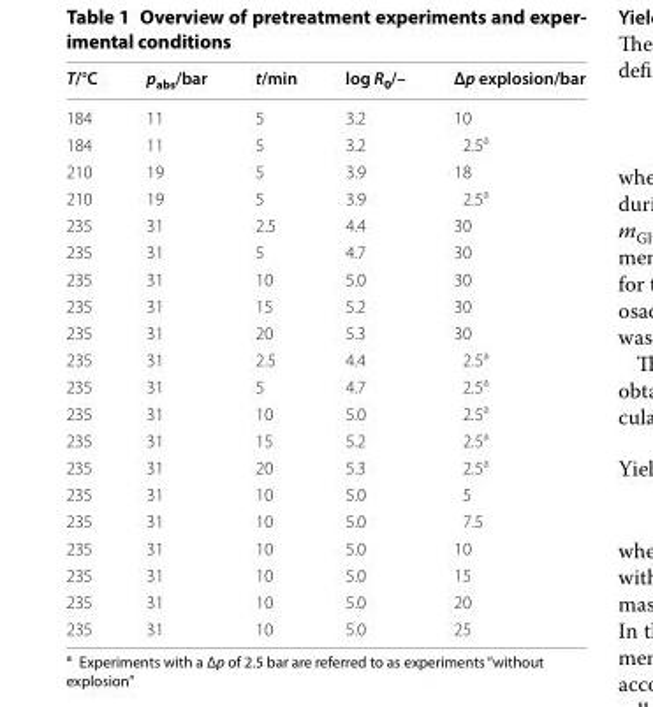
<table><thead><tr><td>T/°C</td><td>p<sub>abs</sub>/bar</td><td>t/min</td><td>log R<sub>0</sub>/–</td><td>Δp explosion/bar</td></tr></thead><tbody><tr><td>184</td><td>11</td><td>5</td><td>3.2</td><td>10</td></tr><tr><td>184</td><td>11</td><td>5</td><td>3.2</td><td>2.5<sup>a</sup></td></tr><tr><td>210</td><td>19</td><td>5</td><td>3.9</td><td>18</td></tr><tr><td>210</td><td>19</td><td>5</td><td>3.9</td><td>2.5<sup>a</sup></td></tr><tr><td>235</td><td>31</td><td>2.5</td><td>4.4</td><td>30</td></tr><tr><td>235</td><td>31</td><td>5</td><td>4.7</td><td>30</td></tr><tr><td>235</td><td>31</td><td>10</td><td>5.0</td><td>30</td></tr><tr><td>235</td><td>31</td><td>15</td><td>5.2</td><td>30</td></tr><tr><td>235</td><td>31</td><td>20</td><td>5.3</td><td>30</td></tr><tr><td>235</td><td>31</td><td>2.5</td><td>4.4</td><td>2.5<sup>a</sup></td></tr><tr><td>235</td><td>31</td><td>5</td><td>4.7</td><td>2.5<sup>a</sup></td></tr><tr><td>235</td><td>31</td><td>10</td><td>5.0</td><td>2.5<sup>a</sup></td></tr><tr><td>235</td><td>31</td><td>15</td><td>5.2</td><td>2.5<sup>a</sup></td></tr><tr><td>235</td><td>31</td><td>20</td><td>5.3</td><td>2.5<sup>a</sup></td></tr><tr><td>235</td><td>31</td><td>10</td><td>5.0</td><td>5</td></tr><tr><td>235</td><td>31</td><td>10</td><td>5.0</td><td>7.5</td></tr><tr><td>235</td><td>31</td><td>10</td><td>5.0</td><td>10</td></tr><tr><td>235</td><td>31</td><td>10</td><td>5.0</td><td>15</td></tr><tr><td>235</td><td>31</td><td>10</td><td>5.0</td><td>20</td></tr><tr><td>235</td><td>31</td><td>10</td><td>5.0</td><td>25</td></tr></tbody></table>